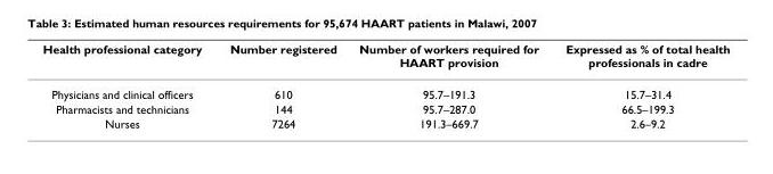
<table><thead><tr><td>Health professional category</td><td>Number registered</td><td>Number of workers required for HAART provision</td><td>Expressed as % of total health professionals in cadre</td></tr></thead><tbody><tr><td>Physicians and clinical officers</td><td>610</td><td>95.7–191.3</td><td>15.7–31.4</td></tr><tr><td>Pharmacists and technicians</td><td>144</td><td>95.7–287.0</td><td>66.5–199.3</td></tr><tr><td>Nurses</td><td>7264</td><td>191.3–669.7</td><td>2.6–9.2</td></tr></tbody></table>